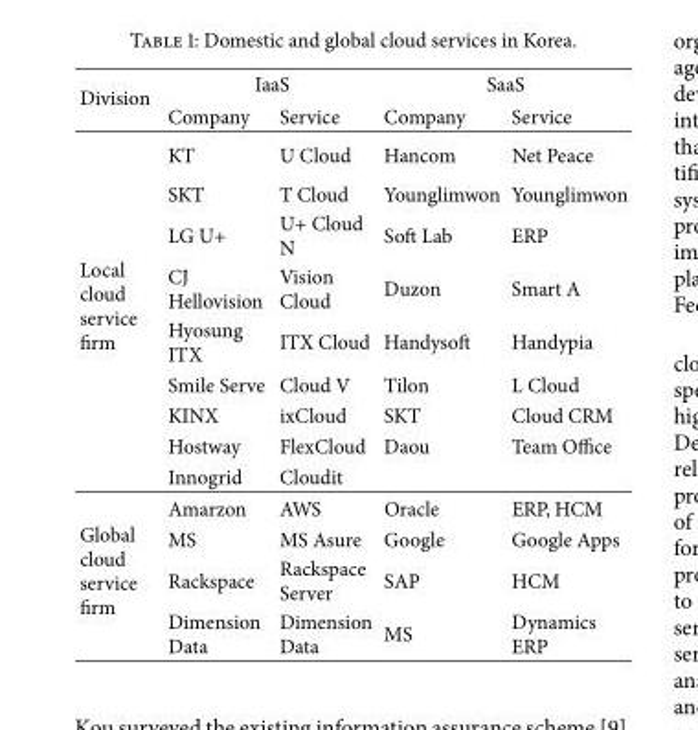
<table><thead><tr><td rowspan="2">Division</td><td colspan="2">IaaS</td><td colspan="2">SaaS</td></tr><tr><td>Company</td><td>Service</td><td>Company</td><td>Service</td></tr></thead><tbody><tr><td rowspan="9">Local cloud service firm</td><td>KT</td><td>U Cloud</td><td>Hancom</td><td>Net Peace</td></tr><tr><td>SKT</td><td>T Cloud</td><td>Younglimwon</td><td>Younglimwon</td></tr><tr><td>LG U+</td><td>U+ Cloud N</td><td>Soft Lab</td><td>ERP</td></tr><tr><td>CJ Hellovision</td><td>Vision Cloud</td><td>Duzon</td><td>Smart A</td></tr><tr><td>Hyosung ITX</td><td>ITX Cloud</td><td>Handysoft</td><td>Handypia</td></tr><tr><td>Smile Serve</td><td>Cloud V</td><td>Tilon</td><td>L Cloud</td></tr><tr><td>KINX</td><td>ixCloud</td><td>SKT</td><td>Cloud CRM</td></tr><tr><td>Hostway</td><td>FlexCloud</td><td>Daou</td><td>Team Office</td></tr><tr><td>Innogrid</td><td>Cloudit</td><td></td><td></td></tr><tr><td rowspan="4">Global cloud service firm</td><td>Amarzon</td><td>AWS</td><td>Oracle</td><td>ERP, HCM</td></tr><tr><td>MS</td><td>MS Asure</td><td>Google</td><td>Google Apps</td></tr><tr><td>Rackspace</td><td>Rackspace Server</td><td>SAP</td><td>HCM</td></tr><tr><td>Dimension Data</td><td>Dimension Data</td><td>MS</td><td>Dynamics ERP</td></tr></tbody></table>